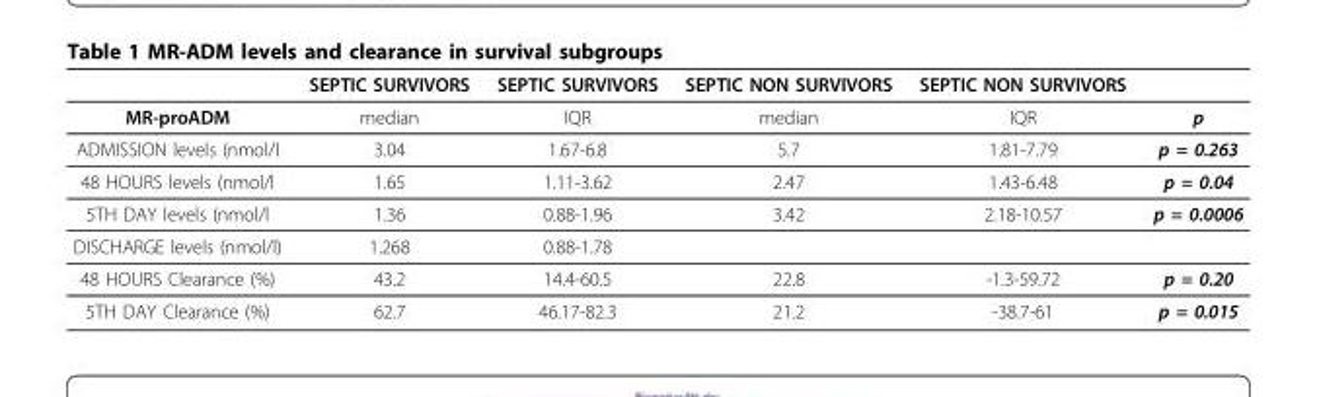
<table><thead><tr><td></td><td>SEPTIC SURVIVORS</td><td>SEPTIC SURVIVORS</td><td>SEPTIC NON SURVIVORS</td><td>SEPTIC NON SURVIVORS</td><td></td></tr></thead><tbody><tr><td>MR-proADM</td><td>median</td><td>IQR</td><td>median</td><td>IQR</td><td>p</td></tr><tr><td>ADMISSION levels (nmol/l</td><td>3.04</td><td>1.67-6.8</td><td>5.7</td><td>1.81-7.79</td><td>p = 0.263</td></tr><tr><td>48 HOURS levels (nmol/l</td><td>1.65</td><td>1.11-3.62</td><td>2.47</td><td>1.43-6.48</td><td>p = 0.04</td></tr><tr><td>5TH DAY levels (nmol/l</td><td>1.36</td><td>0.88-1.96</td><td>3.42</td><td>2.18-10.57</td><td>p = 0.0006</td></tr><tr><td>DISCHARGE levels (nmol/l)</td><td>1.268</td><td>0.88-1.78</td><td></td><td></td><td></td></tr><tr><td>48 HOURS Clearance (%)</td><td>43.2</td><td>14.4-60.5</td><td>22.8</td><td>-1.3-59.72</td><td>p = 0.20</td></tr><tr><td>5TH DAY Clearance (%)</td><td>62.7</td><td>46.17-82.3</td><td>21.2</td><td>-38.7-61</td><td>p = 0.015</td></tr></tbody></table>